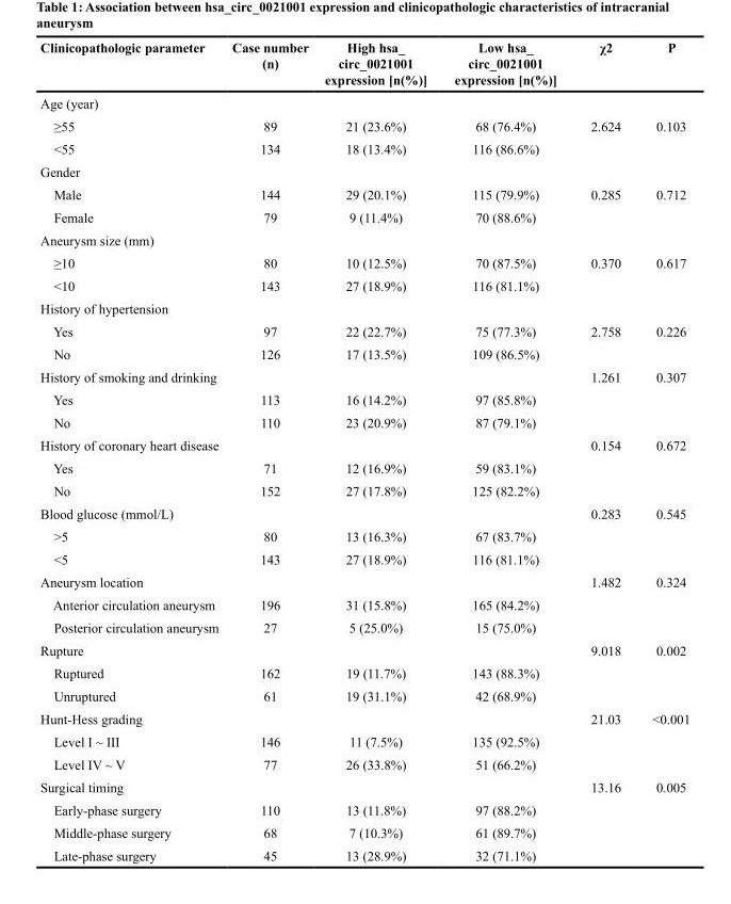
<table><thead><tr><td>Clinicopathologic parameter</td><td>Case number (n)</td><td>High hsa_ circ_0021001 expression [n(%)]</td><td>Low hsa_ circ_0021001 expression [n(%)]</td><td>χ2</td><td>P</td></tr></thead><tbody><tr><td colspan="6">Age (year)</td></tr><tr><td>≥55</td><td>89</td><td>21 (23.6%)</td><td>68 (76.4%)</td><td>2.624</td><td>0.103</td></tr><tr><td>&lt;55</td><td>134</td><td>18 (13.4%)</td><td>116 (86.6%)</td><td></td><td></td></tr><tr><td colspan="6">Gender</td></tr><tr><td>Male</td><td>144</td><td>29 (20.1%)</td><td>115 (79.9%)</td><td>0.285</td><td>0.712</td></tr><tr><td>Female</td><td>79</td><td>9 (11.4%)</td><td>70 (88.6%)</td><td></td><td></td></tr><tr><td colspan="6">Aneurysm size (mm)</td></tr><tr><td>≥10</td><td>80</td><td>10 (12.5%)</td><td>70 (87.5%)</td><td>0.370</td><td>0.617</td></tr><tr><td>&lt;10</td><td>143</td><td>27 (18.9%)</td><td>116 (81.1%)</td><td></td><td></td></tr><tr><td colspan="6">History of hypertension</td></tr><tr><td>Yes</td><td>97</td><td>22 (22.7%)</td><td>75 (77.3%)</td><td>2.758</td><td>0.226</td></tr><tr><td>No</td><td>126</td><td>17 (13.5%)</td><td>109 (86.5%)</td><td></td><td></td></tr><tr><td>History of smoking and drinking</td><td></td><td></td><td></td><td>1.261</td><td>0.307</td></tr><tr><td>Yes</td><td>113</td><td>16 (14.2%)</td><td>97 (85.8%)</td><td></td><td></td></tr><tr><td>No</td><td>110</td><td>23 (20.9%)</td><td>87 (79.1%)</td><td></td><td></td></tr><tr><td>History of coronary heart disease</td><td></td><td></td><td></td><td>0.154</td><td>0.672</td></tr><tr><td>Yes</td><td>71</td><td>12 (16.9%)</td><td>59 (83.1%)</td><td></td><td></td></tr><tr><td>No</td><td>152</td><td>27 (17.8%)</td><td>125 (82.2%)</td><td></td><td></td></tr><tr><td>Blood glucose (mmol/L)</td><td></td><td></td><td></td><td>0.283</td><td>0.545</td></tr><tr><td>&gt;5</td><td>80</td><td>13 (16.3%)</td><td>67 (83.7%)</td><td></td><td></td></tr><tr><td>&lt;5</td><td>143</td><td>27 (18.9%)</td><td>116 (81.1%)</td><td></td><td></td></tr><tr><td>Aneurysm location</td><td></td><td></td><td></td><td>1.482</td><td>0.324</td></tr><tr><td>Anterior circulation aneurysm</td><td>196</td><td>31 (15.8%)</td><td>165 (84.2%)</td><td></td><td></td></tr><tr><td>Posterior circulation aneurysm</td><td>27</td><td>5 (25.0%)</td><td>15 (75.0%)</td><td></td><td></td></tr><tr><td>Rupture</td><td></td><td></td><td></td><td>9.018</td><td>0.002</td></tr><tr><td>Ruptured</td><td>162</td><td>19 (11.7%)</td><td>143 (88.3%)</td><td></td><td></td></tr><tr><td>Unruptured</td><td>61</td><td>19 (31.1%)</td><td>42 (68.9%)</td><td></td><td></td></tr><tr><td>Hunt-Hess grading</td><td></td><td></td><td></td><td>21.03</td><td>&lt;0.001</td></tr><tr><td>Level I ~ III</td><td>146</td><td>11 (7.5%)</td><td>135 (92.5%)</td><td></td><td></td></tr><tr><td>Level IV ~ V</td><td>77</td><td>26 (33.8%)</td><td>51 (66.2%)</td><td></td><td></td></tr><tr><td>Surgical timing</td><td></td><td></td><td></td><td>13.16</td><td>0.005</td></tr><tr><td>Early-phase surgery</td><td>110</td><td>13 (11.8%)</td><td>97 (88.2%)</td><td></td><td></td></tr><tr><td>Middle-phase surgery</td><td>68</td><td>7 (10.3%)</td><td>61 (89.7%)</td><td></td><td></td></tr><tr><td>Late-phase surgery</td><td>45</td><td>13 (28.9%)</td><td>32 (71.1%)</td><td></td><td></td></tr></tbody></table>